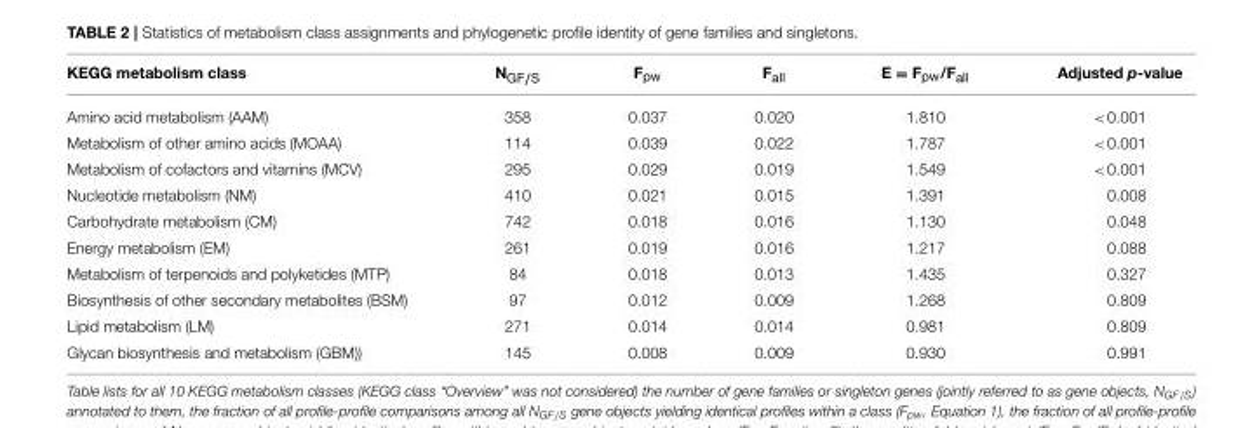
<table><thead><tr><td>KEGG metabolism class</td><td>N<sub>GF/S</sub></td><td>F<sub>pw</sub></td><td>F<sub>all</sub></td><td>E = F<sub>pw</sub>/F<sub>all</sub></td><td>Adjusted p-value</td></tr></thead><tbody><tr><td>Amino acid metabolism (AAM)</td><td>358</td><td>0.037</td><td>0.020</td><td>1.810</td><td>&lt;0.001</td></tr><tr><td>Metabolism of other amino acids (MOAA)</td><td>114</td><td>0.039</td><td>0.022</td><td>1.787</td><td>&lt;0.001</td></tr><tr><td>Metabolism of cofactors and vitamins (MCV)</td><td>295</td><td>0.029</td><td>0.019</td><td>1.549</td><td>&lt;0.001</td></tr><tr><td>Nucleotide metabolism (NM)</td><td>410</td><td>0.021</td><td>0.015</td><td>1.391</td><td>0.008</td></tr><tr><td>Carbohydrate metabolism (CM)</td><td>742</td><td>0.018</td><td>0.016</td><td>1.130</td><td>0.048</td></tr><tr><td>Energy metabolism (EM)</td><td>261</td><td>0.019</td><td>0.016</td><td>1.217</td><td>0.088</td></tr><tr><td>Metabolism of terpenoids and polyketides (MTP)</td><td>84</td><td>0.018</td><td>0.013</td><td>1.435</td><td>0.327</td></tr><tr><td>Biosynthesis of other secondary metabolites (BSM)</td><td>97</td><td>0.012</td><td>0.009</td><td>1.268</td><td>0.809</td></tr><tr><td>Lipid metabolism (LM)</td><td>271</td><td>0.014</td><td>0.014</td><td>0.981</td><td>0.809</td></tr><tr><td>Glycan biosynthesis and metabolism (GBM))</td><td>145</td><td>0.008</td><td>0.009</td><td>0.930</td><td>0.991</td></tr></tbody></table>